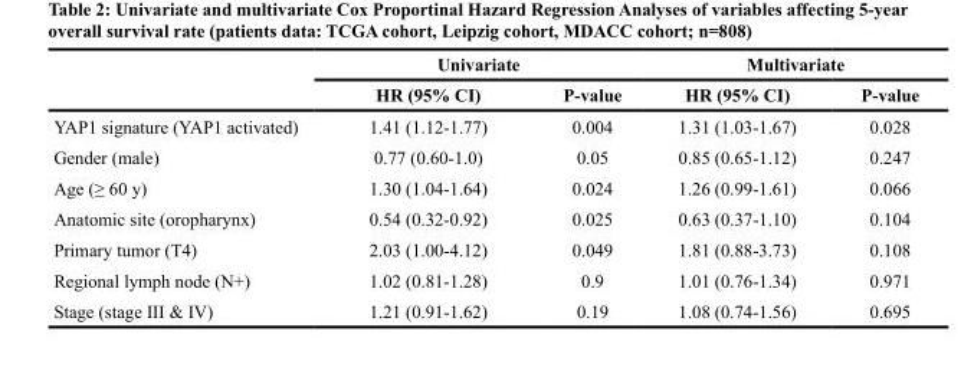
<table><thead><tr><td rowspan="2"></td><td colspan="2">Univariate</td><td colspan="2">Multivariate</td></tr><tr><td>HR (95% CI)</td><td>P-value</td><td>HR (95% CI)</td><td>P-value</td></tr></thead><tbody><tr><td>YAP1 signature (YAP1 activated)</td><td>1.41 (1.12-1.77)</td><td>0.004</td><td>1.31 (1.03-1.67)</td><td>0.028</td></tr><tr><td>Gender (male)</td><td>0.77 (0.60-1.0)</td><td>0.05</td><td>0.85 (0.65-1.12)</td><td>0.247</td></tr><tr><td>Age (≥ 60 y)</td><td>1.30 (1.04-1.64)</td><td>0.024</td><td>1.26 (0.99-1.61)</td><td>0.066</td></tr><tr><td>Anatomic site (oropharynx)</td><td>0.54 (0.32-0.92)</td><td>0.025</td><td>0.63 (0.37-1.10)</td><td>0.104</td></tr><tr><td>Primary tumor (T4)</td><td>2.03 (1.00-4.12)</td><td>0.049</td><td>1.81 (0.88-3.73)</td><td>0.108</td></tr><tr><td>Regional lymph node (N+)</td><td>1.02 (0.81-1.28)</td><td>0.9</td><td>1.01 (0.76-1.34)</td><td>0.971</td></tr><tr><td>Stage (stage III &amp; IV)</td><td>1.21 (0.91-1.62)</td><td>0.19</td><td>1.08 (0.74-1.56)</td><td>0.695</td></tr></tbody></table>